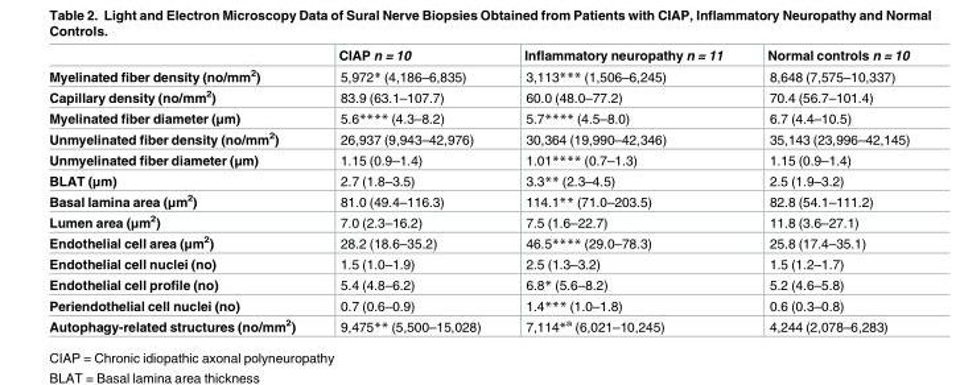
<table><thead><tr><td></td><td>CIAP n = 10</td><td>Inflammatory neuropathy n = 11</td><td>Normal controls n = 10</td></tr></thead><tbody><tr><td>Myelinated fiber density (no/mm<sup>2</sup>)</td><td>5,972* (4,186–6,835)</td><td>3,113*** (1,506–6,245)</td><td>8,648 (7,575–10,337)</td></tr><tr><td>Capillary density (no/mm<sup>2</sup>)</td><td>83.9 (63.1–107.7)</td><td>60.0 (48.0–77.2)</td><td>70.4 (56.7–101.4)</td></tr><tr><td>Myelinated fiber diameter (μm)</td><td>5.6**** (4.3–8.2)</td><td>5.7**** (4.5–8.0)</td><td>6.7 (4.4–10.5)</td></tr><tr><td>Unmyelinated fiber density (no/mm<sup>2</sup>)</td><td>26,937 (9,943–42,976)</td><td>30,364 (19,990–42,346)</td><td>35,143 (23,996–42,145)</td></tr><tr><td>Unmyelinated fiber diameter (μm)</td><td>1.15 (0.9–1.4)</td><td>1.01**** (0.7–1.3)</td><td>1.15 (0.9–1.4)</td></tr><tr><td>BLAT (μm)</td><td>2.7 (1.8–3.5)</td><td>3.3** (2.3–4.5)</td><td>2.5 (1.9–3.2)</td></tr><tr><td>Basal lamina area (μm<sup>2</sup>)</td><td>81.0 (49.4–116.3)</td><td>114.1** (71.0–203.5)</td><td>82.8 (54.1–111.2)</td></tr><tr><td>Lumen area (μm<sup>2</sup>)</td><td>7.0 (2.3–16.2)</td><td>7.5 (1.6–22.7)</td><td>11.8 (3.6–27.1)</td></tr><tr><td>Endothelial cell area (μm<sup>2</sup>)</td><td>28.2 (18.6–35.2)</td><td>46.5**** (29.0–78.3)</td><td>25.8 (17.4–35.1)</td></tr><tr><td>Endothelial cell nuclei (no)</td><td>1.5 (1.0–1.9)</td><td>2.5 (1.3–3.2)</td><td>1.5 (1.2–1.7)</td></tr><tr><td>Endothelial cell profile (no)</td><td>5.4 (4.8–6.2)</td><td>6.8* (5.6–8.2)</td><td>5.2 (4.6–5.8)</td></tr><tr><td>Periendothelial cell nuclei (no)</td><td>0.7 (0.6–0.9)</td><td>1.4*** (1.0–1.8)</td><td>0.6 (0.3–0.8)</td></tr><tr><td>Autophagy-related structures (no/mm<sup>2</sup>)</td><td>9,475** (5,500–15,028)</td><td>7,114*<sup>a</sup> (6,021–10,245)</td><td>4,244 (2,078–6,283)</td></tr></tbody></table>